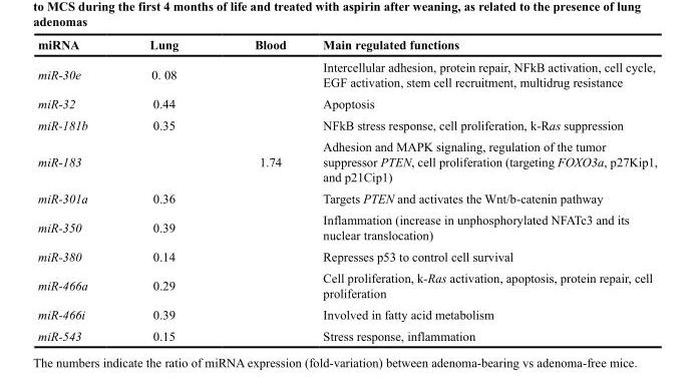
<table><thead><tr><td>miRNA</td><td>Lung</td><td>Blood</td><td>Main regulated functions</td></tr></thead><tbody><tr><td>miR-30e</td><td>0. 08</td><td></td><td>Intercellular adhesion, protein repair, NFkB activation, cell cycle, EGF activation, stem cell recruitment, multidrug resistance</td></tr><tr><td>miR-32</td><td>0.44</td><td></td><td>Apoptosis</td></tr><tr><td>miR-181b</td><td>0.35</td><td></td><td>NFkB stress response, cell proliferation, k-Ras suppression</td></tr><tr><td>miR-183</td><td></td><td>1.74</td><td>Adhesion and MAPK signaling, regulation of the tumor suppressor PTEN, cell proliferation (targeting FOXO3a, p27Kip1, and p21Cip1)</td></tr><tr><td>miR-301a</td><td>0.36</td><td></td><td>Targets PTEN and activates the Wnt/b-catenin pathway</td></tr><tr><td>miR-350</td><td>0.39</td><td></td><td>Inflammation (increase in unphosphorylated NFATc3 and its nuclear translocation)</td></tr><tr><td>miR-380</td><td>0.14</td><td></td><td>Represses p53 to control cell survival</td></tr><tr><td>miR-466a</td><td>0.29</td><td></td><td>Cell proliferation, k-Ras activation, apoptosis, protein repair, cell proliferation</td></tr><tr><td>miR-466i</td><td>0.39</td><td></td><td>Involved in fatty acid metabolism</td></tr><tr><td>miR-543</td><td>0.15</td><td></td><td>Stress response, inflammation</td></tr></tbody></table>